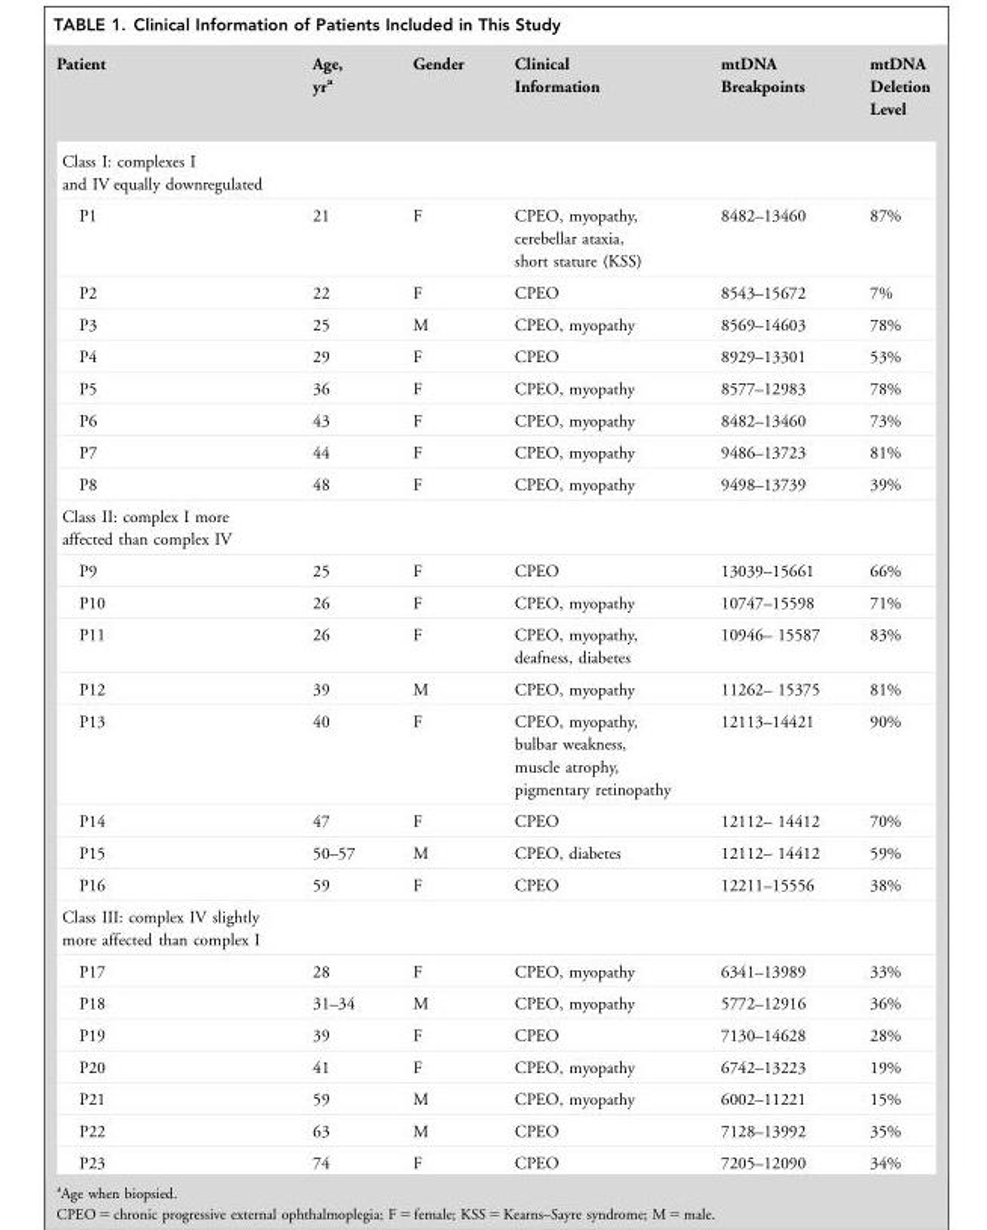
<table><thead><tr><td>Patient</td><td>Age, yr<sup>a</sup></td><td>Gender</td><td>Clinical Information</td><td>mtDNA Breakpoints</td><td>mtDNA Deletion Level</td></tr></thead><tbody><tr><td colspan="6">Class I: complexes I and IV equally downregulated</td></tr><tr><td>P1</td><td>21</td><td>F</td><td>CPEO, myopathy, cerebellar ataxia, short stature (KSS)</td><td>8482–13460</td><td>87%</td></tr><tr><td>P2</td><td>22</td><td>F</td><td>CPEO</td><td>8543–15672</td><td>7%</td></tr><tr><td>P3</td><td>25</td><td>M</td><td>CPEO, myopathy</td><td>8569–14603</td><td>78%</td></tr><tr><td>P4</td><td>29</td><td>F</td><td>CPEO</td><td>8929–13301</td><td>53%</td></tr><tr><td>P5</td><td>36</td><td>F</td><td>CPEO, myopathy</td><td>8577–12983</td><td>78%</td></tr><tr><td>P6</td><td>43</td><td>F</td><td>CPEO, myopathy</td><td>8482–13460</td><td>73%</td></tr><tr><td>P7</td><td>44</td><td>F</td><td>CPEO, myopathy</td><td>9486–13723</td><td>81%</td></tr><tr><td>P8</td><td>48</td><td>F</td><td>CPEO, myopathy</td><td>9498–13739</td><td>39%</td></tr><tr><td colspan="6">Class II: complex I more affected than complex IV</td></tr><tr><td>P9</td><td>25</td><td>F</td><td>CPEO</td><td>13039–15661</td><td>66%</td></tr><tr><td>P10</td><td>26</td><td>F</td><td>CPEO, myopathy</td><td>10747–15598</td><td>71%</td></tr><tr><td>P11</td><td>26</td><td>F</td><td>CPEO, myopathy, deafness, diabetes</td><td>10946– 15587</td><td>83%</td></tr><tr><td>P12</td><td>39</td><td>M</td><td>CPEO, myopathy</td><td>11262– 15375</td><td>81%</td></tr><tr><td>P13</td><td>40</td><td>F</td><td>CPEO, myopathy, bulbar weakness, muscle atrophy, pigmentary retinopathy</td><td>12113–14421</td><td>90%</td></tr><tr><td>P14</td><td>47</td><td>F</td><td>CPEO</td><td>12112– 14412</td><td>70%</td></tr><tr><td>P15</td><td>50–57</td><td>M</td><td>CPEO, diabetes</td><td>12112– 14412</td><td>59%</td></tr><tr><td>P16</td><td>59</td><td>F</td><td>CPEO</td><td>12211–15556</td><td>38%</td></tr><tr><td colspan="6">Class III: complex IV slightly more affected than complex I</td></tr><tr><td>P17</td><td>28</td><td>F</td><td>CPEO, myopathy</td><td>6341–13989</td><td>33%</td></tr><tr><td>P18</td><td>31–34</td><td>M</td><td>CPEO, myopathy</td><td>5772–12916</td><td>36%</td></tr><tr><td>P19</td><td>39</td><td>F</td><td>CPEO</td><td>7130–14628</td><td>28%</td></tr><tr><td>P20</td><td>41</td><td>F</td><td>CPEO, myopathy</td><td>6742–13223</td><td>19%</td></tr><tr><td>P21</td><td>59</td><td>M</td><td>CPEO, myopathy</td><td>6002–11221</td><td>15%</td></tr><tr><td>P22</td><td>63</td><td>M</td><td>CPEO</td><td>7128–13992</td><td>35%</td></tr><tr><td>P23</td><td>74</td><td>F</td><td>CPEO</td><td>7205–12090</td><td>34%</td></tr></tbody></table>